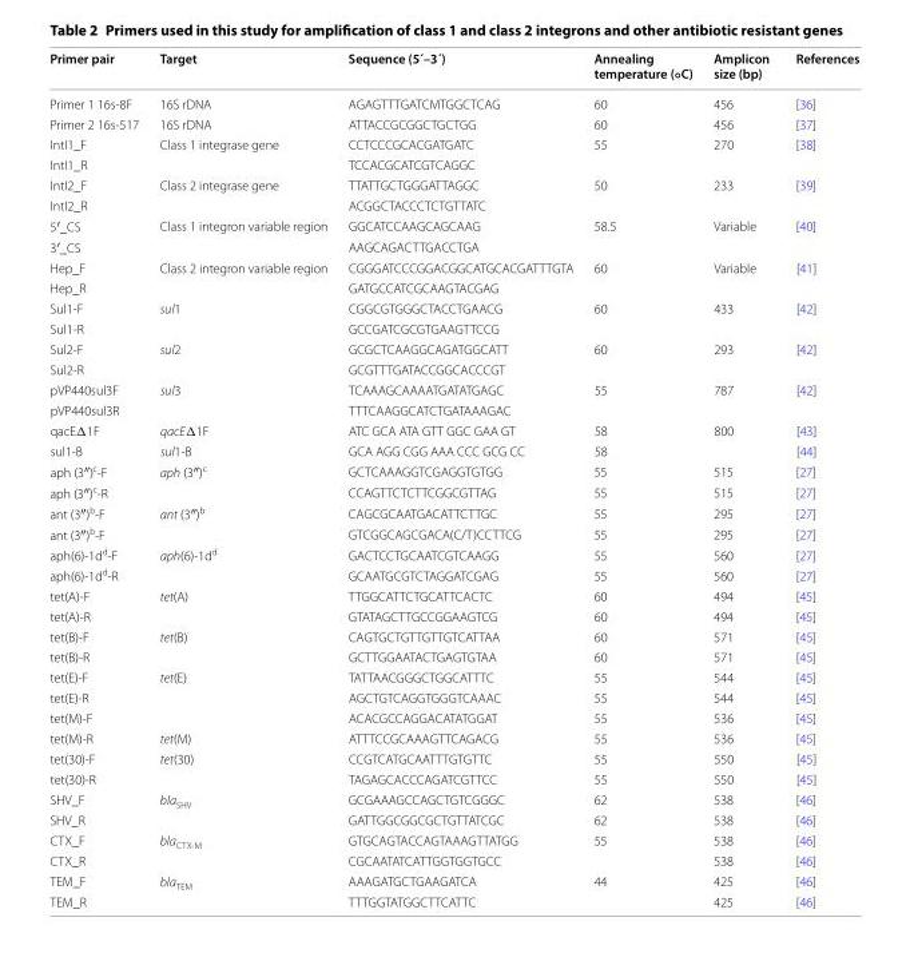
<table><thead><tr><td>Primer pair</td><td>Target</td><td>Sequence (5´–3´)</td><td>Annealing temperature (◦C)</td><td>Amplicon size (bp)</td><td>References</td></tr></thead><tbody><tr><td>Primer 1 16s-8F</td><td>16S rDNA</td><td>AGAGTTTGATCMTGGCTCAG</td><td>60</td><td>456</td><td>[36]</td></tr><tr><td>Primer 2 16s-517</td><td>16S rDNA</td><td>ATTACCGCGGCTGCTGG</td><td>60</td><td>456</td><td>[37]</td></tr><tr><td>IntI1_F</td><td rowspan="2">Class 1 integrase gene</td><td>CCTCCCGCACGATGATC</td><td rowspan="2">55</td><td rowspan="2">270</td><td rowspan="2">[38]</td></tr><tr><td>IntI1_R</td><td>TCCACGCATCGTCAGGC</td></tr><tr><td>IntI2_F</td><td rowspan="2">Class 2 integrase gene</td><td>TTATTGCTGGGATTAGGC</td><td rowspan="2">50</td><td rowspan="2">233</td><td rowspan="2">[39]</td></tr><tr><td>IntI2_R</td><td>ACGGCTACCCTCTGTTATC</td></tr><tr><td>5′_CS</td><td rowspan="2">Class 1 integron variable region</td><td>GGCATCCAAGCAGCAAG</td><td rowspan="2">58.5</td><td rowspan="2">Variable</td><td rowspan="2">[40]</td></tr><tr><td>3′_CS</td><td>AAGCAGACTTGACCTGA</td></tr><tr><td>Hep_F</td><td rowspan="2">Class 2 integron variable region</td><td>CGGGATCCCGGACGGCATGCACGATTTGTA</td><td rowspan="2">60</td><td rowspan="2">Variable</td><td rowspan="2">[41]</td></tr><tr><td>Hep_R</td><td>GATGCCATCGCAAGTACGAG</td></tr><tr><td>Sul1-F</td><td rowspan="2">sul1</td><td>CGGCGTGGGCTACCTGAACG</td><td rowspan="2">60</td><td rowspan="2">433</td><td rowspan="2">[42]</td></tr><tr><td>Sul1-R</td><td>GCCGATCGCGTGAAGTTCCG</td></tr><tr><td>Sul2-F</td><td rowspan="2">sul2</td><td>GCGCTCAAGGCAGATGGCATT</td><td rowspan="2">60</td><td rowspan="2">293</td><td rowspan="2">[42]</td></tr><tr><td>Sul2-R</td><td>GCGTTTGATACCGGCACCCGT</td></tr><tr><td>pVP440sul3F</td><td rowspan="2">sul3</td><td>TCAAAGCAAAATGATATGAGC</td><td rowspan="2">55</td><td rowspan="2">787</td><td rowspan="2">[42]</td></tr><tr><td>pVP440sul3R</td><td>TTTCAAGGCATCTGATAAAGAC</td></tr><tr><td>qacEΔ1F</td><td>qacEΔ1F</td><td>ATC GCA ATA GTT GGC GAA GT</td><td>58</td><td>800</td><td>[43]</td></tr><tr><td>sul1-B</td><td>sul1-B</td><td>GCA AGG CGG AAA CCC GCG CC</td><td>58</td><td></td><td>[44]</td></tr><tr><td>aph (3″)<sup>c</sup>-F</td><td rowspan="2">aph (3″)<sup>c</sup></td><td>GCTCAAAGGTCGAGGTGTGG</td><td>55</td><td>515</td><td>[27]</td></tr><tr><td>aph (3″)<sup>c</sup>-R</td><td>CCAGTTCTCTTCGGCGTTAG</td><td>55</td><td>515</td><td>[27]</td></tr><tr><td>ant (3″)<sup>b</sup>-F</td><td rowspan="2">ant (3″)<sup>b</sup></td><td>CAGCGCAATGACATTCTTGC</td><td>55</td><td>295</td><td>[27]</td></tr><tr><td>ant (3″)<sup>b</sup>-F</td><td>GTCGGCAGCGACA(C/T)CCTTCG</td><td>55</td><td>295</td><td>[27]</td></tr><tr><td>aph(6)-1d<sup>d</sup>-F</td><td rowspan="2">aph(6)-1d<sup>d</sup></td><td>GACTCCTGCAATCGTCAAGG</td><td>55</td><td>560</td><td>[27]</td></tr><tr><td>aph(6)-1d<sup>d</sup>-R</td><td>GCAATGCGTCTAGGATCGAG</td><td>55</td><td>560</td><td>[27]</td></tr><tr><td>tet(A)-F</td><td rowspan="2">tet(A)</td><td>TTGGCATTCTGCATTCACTC</td><td>60</td><td>494</td><td>[45]</td></tr><tr><td>tet(A)-R</td><td>GTATAGCTTGCCGGAAGTCG</td><td>60</td><td>494</td><td>[45]</td></tr><tr><td>tet(B)-F</td><td rowspan="2">tet(B)</td><td>CAGTGCTGTTGTTGTCATTAA</td><td>60</td><td>571</td><td>[45]</td></tr><tr><td>tet(B)-R</td><td>GCTTGGAATACTGAGTGTAA</td><td>60</td><td>571</td><td>[45]</td></tr><tr><td>tet(E)-F</td><td rowspan="2">tet(E)</td><td>TATTAACGGGCTGGCATTTC</td><td>55</td><td>544</td><td>[45]</td></tr><tr><td>tet(E)-R</td><td>AGCTGTCAGGTGGGTCAAAC</td><td>55</td><td>544</td><td>[45]</td></tr><tr><td>tet(M)-F</td><td></td><td>ACACGCCAGGACATATGGAT</td><td>55</td><td>536</td><td>[45]</td></tr><tr><td>tet(M)-R</td><td>tet(M)</td><td>ATTTCCGCAAAGTTCAGACG</td><td>55</td><td>536</td><td>[45]</td></tr><tr><td>tet(30)-F</td><td rowspan="2">tet(30)</td><td>CCGTCATGCAATTTGTGTTC</td><td>55</td><td>550</td><td>[45]</td></tr><tr><td>tet(30)-R</td><td>TAGAGCACCCAGATCGTTCC</td><td>55</td><td>550</td><td>[45]</td></tr><tr><td>SHV_F</td><td rowspan="2">bla<sub>SHV</sub></td><td>GCGAAAGCCAGCTGTCGGGC</td><td>62</td><td>538</td><td>[46]</td></tr><tr><td>SHV_R</td><td>GATTGGCGGCGCTGTTATCGC</td><td>62</td><td>538</td><td>[46]</td></tr><tr><td>CTX_F</td><td rowspan="2">bla<sub>CTX-M</sub></td><td>GTGCAGTACCAGTAAAGTTATGG</td><td>55</td><td>538</td><td>[46]</td></tr><tr><td>CTX_R</td><td>CGCAATATCATTGGTGGTGCC</td><td></td><td>538</td><td>[46]</td></tr><tr><td>TEM_F</td><td rowspan="2">bla<sub>TEM</sub></td><td>AAAGATGCTGAAGATCA</td><td>44</td><td>425</td><td>[46]</td></tr><tr><td>TEM_R</td><td>TTTGGTATGGCTTCATTC</td><td></td><td>425</td><td>[46]</td></tr></tbody></table>